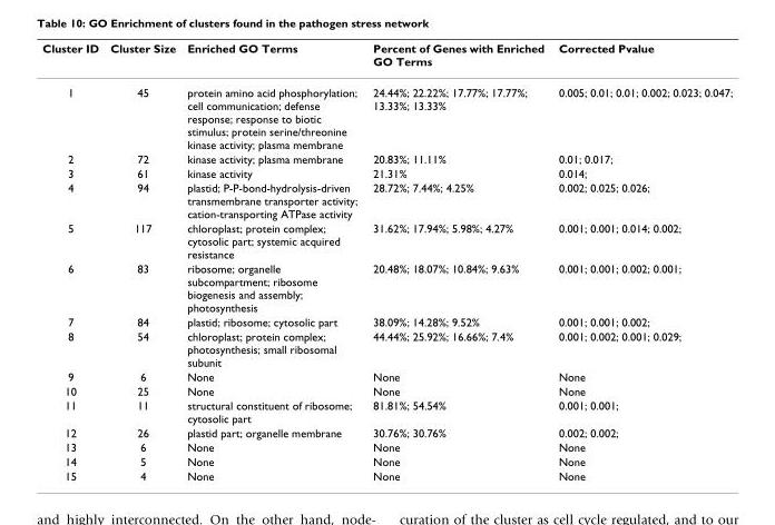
<table><thead><tr><td>Cluster ID</td><td>Cluster Size</td><td>Enriched GO Terms</td><td>Percent of Genes with Enriched GO Terms</td><td>Corrected Pvalue</td></tr></thead><tbody><tr><td>1</td><td>45</td><td>protein amino acid phosphorylation; cell communication; defense response; response to biotic stimulus; protein serine/threonine kinase activity; plasma membrane</td><td>24.44%; 22.22%; 17.77%; 17.77%; 13.33%; 13.33%</td><td>0.005; 0.01; 0.01; 0.002; 0.023; 0.047;</td></tr><tr><td>2</td><td>72</td><td>kinase activity; plasma membrane</td><td>20.83%; 11.11%</td><td>0.01; 0.017;</td></tr><tr><td>3</td><td>61</td><td>kinase activity</td><td>21.31%</td><td>0.014;</td></tr><tr><td>4</td><td>94</td><td>plastid; P-P-bond-hydrolysis-driven transmembrane transporter activity; cation-transporting ATPase activity</td><td>28.72%; 7.44%; 4.25%</td><td>0.002; 0.025; 0.026;</td></tr><tr><td>5</td><td>117</td><td>chloroplast; protein complex; cytosolic part; systemic acquired resistance</td><td>31.62%; 17.94%; 5.98%; 4.27%</td><td>0.001; 0.001; 0.014; 0.002;</td></tr><tr><td>6</td><td>83</td><td>ribosome; organelle subcompartment; ribosome biogenesis and assembly; photosynthesis</td><td>20.48%; 18.07%; 10.84%; 9.63%</td><td>0.001; 0.001; 0.002; 0.001;</td></tr><tr><td>7</td><td>84</td><td>plastid; ribosome; cytosolic part</td><td>38.09%; 14.28%; 9.52%</td><td>0.001; 0.001; 0.002;</td></tr><tr><td>8</td><td>54</td><td>chloroplast; protein complex; photosynthesis; small ribosomal subunit</td><td>44.44%; 25.92%; 16.66%; 7.4%</td><td>0.001; 0.002; 0.001; 0.029;</td></tr><tr><td>9</td><td>6</td><td>None</td><td>None</td><td>None</td></tr><tr><td>10</td><td>25</td><td>None</td><td>None</td><td>None</td></tr><tr><td>11</td><td>11</td><td>structural constituent of ribosome; cytosolic part</td><td>81.81%; 54.54%</td><td>0.001; 0.001;</td></tr><tr><td>12</td><td>26</td><td>plastid part; organelle membrane</td><td>30.76%; 30.76%</td><td>0.002; 0.002;</td></tr><tr><td>13</td><td>6</td><td>None</td><td>None</td><td>None</td></tr><tr><td>14</td><td>5</td><td>None</td><td>None</td><td>None</td></tr><tr><td>15</td><td>4</td><td>None</td><td>None</td><td>None</td></tr></tbody></table>